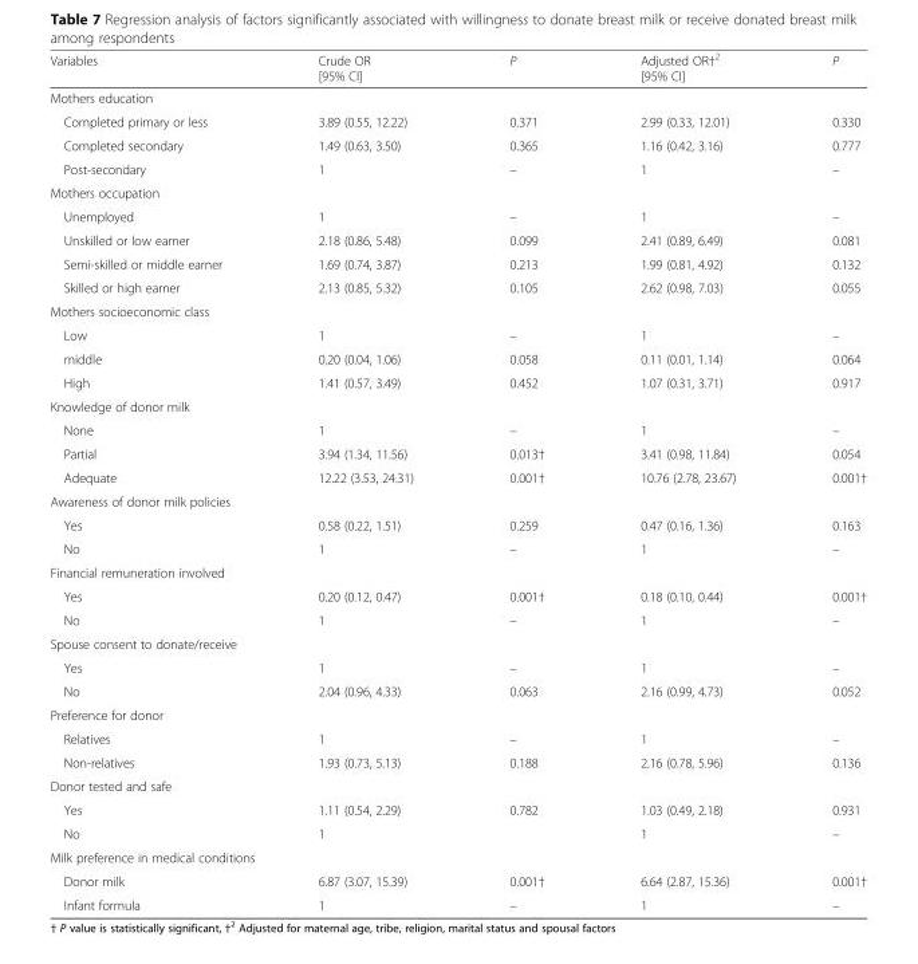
<table><thead><tr><td>Variables</td><td>Crude OR [95% CI]</td><td>P</td><td>Adjusted OR†<sup>2</sup> [95% CI]</td><td>P</td></tr></thead><tbody><tr><td colspan="5">Mothers education</td></tr><tr><td>Completed primary or less</td><td>3.89 (0.55, 12.22)</td><td>0.371</td><td>2.99 (0.33, 12.01)</td><td>0.330</td></tr><tr><td>Completed secondary</td><td>1.49 (0.63, 3.50)</td><td>0.365</td><td>1.16 (0.42, 3.16)</td><td>0.777</td></tr><tr><td>Post-secondary</td><td>1</td><td>–</td><td>1</td><td>–</td></tr><tr><td colspan="5">Mothers occupation</td></tr><tr><td>Unemployed</td><td>1</td><td>–</td><td>1</td><td>–</td></tr><tr><td>Unskilled or low earner</td><td>2.18 (0.86, 5.48)</td><td>0.099</td><td>2.41 (0.89, 6.49)</td><td>0.081</td></tr><tr><td>Semi-skilled or middle earner</td><td>1.69 (0.74, 3.87)</td><td>0.213</td><td>1.99 (0.81, 4.92)</td><td>0.132</td></tr><tr><td>Skilled or high earner</td><td>2.13 (0.85, 5.32)</td><td>0.105</td><td>2.62 (0.98, 7.03)</td><td>0.055</td></tr><tr><td colspan="5">Mothers socioeconomic class</td></tr><tr><td>Low</td><td>1</td><td>–</td><td>1</td><td>–</td></tr><tr><td>middle</td><td>0.20 (0.04, 1.06)</td><td>0.058</td><td>0.11 (0.01, 1.14)</td><td>0.064</td></tr><tr><td>High</td><td>1.41 (0.57, 3.49)</td><td>0.452</td><td>1.07 (0.31, 3.71)</td><td>0.917</td></tr><tr><td colspan="5">Knowledge of donor milk</td></tr><tr><td>None</td><td>1</td><td>–</td><td>1</td><td>–</td></tr><tr><td>Partial</td><td>3.94 (1.34, 11.56)</td><td>0.013†</td><td>3.41 (0.98, 11.84)</td><td>0.054</td></tr><tr><td>Adequate</td><td>12.22 (3.53, 24.31)</td><td>0.001†</td><td>10.76 (2.78, 23.67)</td><td>0.001†</td></tr><tr><td colspan="5">Awareness of donor milk policies</td></tr><tr><td>Yes</td><td>0.58 (0.22, 1.51)</td><td>0.259</td><td>0.47 (0.16, 1.36)</td><td>0.163</td></tr><tr><td>No</td><td>1</td><td>–</td><td>1</td><td>–</td></tr><tr><td colspan="5">Financial remuneration involved</td></tr><tr><td>Yes</td><td>0.20 (0.12, 0.47)</td><td>0.001†</td><td>0.18 (0.10, 0.44)</td><td>0.001†</td></tr><tr><td>No</td><td>1</td><td>–</td><td>1</td><td>–</td></tr><tr><td colspan="5">Spouse consent to donate/receive</td></tr><tr><td>Yes</td><td>1</td><td>–</td><td>1</td><td>–</td></tr><tr><td>No</td><td>2.04 (0.96, 4.33)</td><td>0.063</td><td>2.16 (0.99, 4.73)</td><td>0.052</td></tr><tr><td colspan="5">Preference for donor</td></tr><tr><td>Relatives</td><td>1</td><td>–</td><td>1</td><td>–</td></tr><tr><td>Non-relatives</td><td>1.93 (0.73, 5.13)</td><td>0.188</td><td>2.16 (0.78, 5.96)</td><td>0.136</td></tr><tr><td colspan="5">Donor tested and safe</td></tr><tr><td>Yes</td><td>1.11 (0.54, 2.29)</td><td>0.782</td><td>1.03 (0.49, 2.18)</td><td>0.931</td></tr><tr><td>No</td><td>1</td><td></td><td>1</td><td>–</td></tr><tr><td colspan="5">Milk preference in medical conditions</td></tr><tr><td>Donor milk</td><td>6.87 (3.07, 15.39)</td><td>0.001†</td><td>6.64 (2.87, 15.36)</td><td>0.001†</td></tr><tr><td>Infant formula</td><td>1</td><td>–</td><td>1</td><td>–</td></tr></tbody></table>